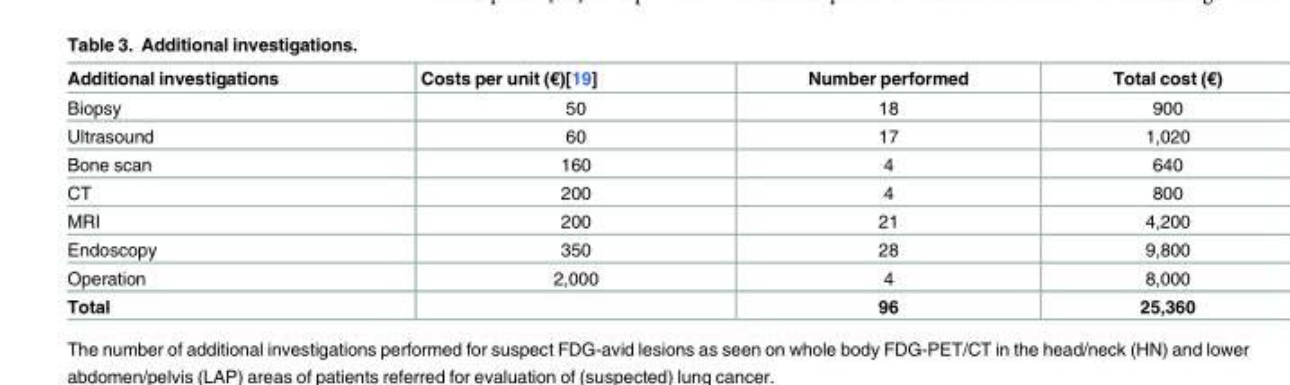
<table><thead><tr><td>Additional investigations</td><td>Costs per unit (€)[19]</td><td>Number performed</td><td>Total cost (€)</td></tr></thead><tbody><tr><td>Biopsy</td><td>50</td><td>18</td><td>900</td></tr><tr><td>Ultrasound</td><td>60</td><td>17</td><td>1,020</td></tr><tr><td>Bone scan</td><td>160</td><td>4</td><td>640</td></tr><tr><td>CT</td><td>200</td><td>4</td><td>800</td></tr><tr><td>MRI</td><td>200</td><td>21</td><td>4,200</td></tr><tr><td>Endoscopy</td><td>350</td><td>28</td><td>9,800</td></tr><tr><td>Operation</td><td>2,000</td><td>4</td><td>8,000</td></tr><tr><td>Total</td><td></td><td>96</td><td>25,360</td></tr></tbody></table>